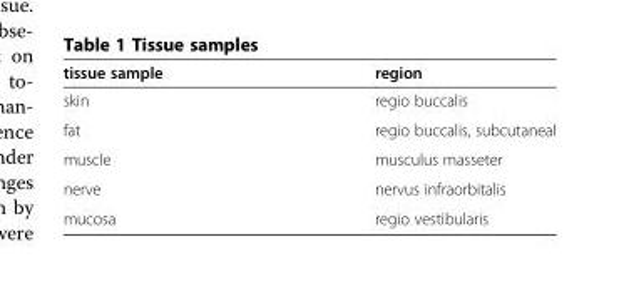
<table><thead><tr><td>tissue sample</td><td>region</td></tr></thead><tbody><tr><td>skin</td><td>regio buccalis</td></tr><tr><td>fat</td><td>regio buccalis, subcutaneal</td></tr><tr><td>muscle</td><td>musculus masseter</td></tr><tr><td>nerve</td><td>nervus infraorbitalis</td></tr><tr><td>mucosa</td><td>regio vestibularis</td></tr></tbody></table>